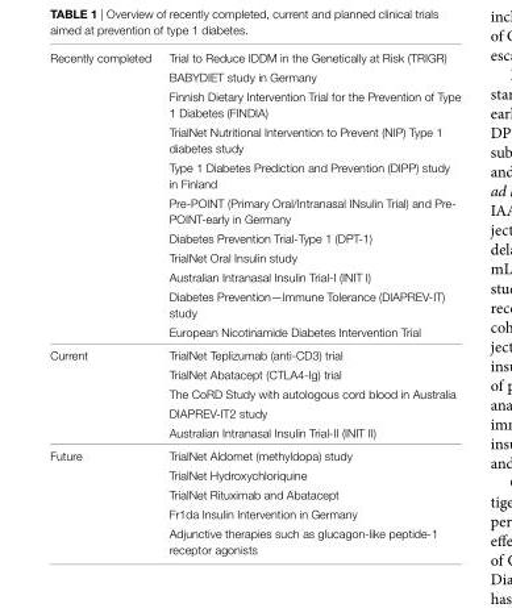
<table><tbody><tr><td rowspan="11">Recently completed</td><td>Trial to Reduce IDDM in the Genetically at Risk (TRIGR)</td></tr><tr><td>BABYDIET study in Germany</td></tr><tr><td>Finnish Dietary Intervention Trial for the Prevention of Type 1 Diabetes (FINDIA)</td></tr><tr><td>TrialNet Nutritional Intervention to Prevent (NIP) Type 1 diabetes study</td></tr><tr><td>Type 1 Diabetes Prediction and Prevention (DIPP) study in Finland</td></tr><tr><td>Pre-POINT (Primary Oral/Intranasal INsulin Trial) and Pre- POINT-early in Germany</td></tr><tr><td>Diabetes Prevention Trial-Type 1 (DPT-1)</td></tr><tr><td>TrialNet Oral Insulin study</td></tr><tr><td>Australian Intranasal Insulin Trial-I (INIT I)</td></tr><tr><td>Diabetes Prevention—Immune Tolerance (DIAPREV-IT) study</td></tr><tr><td>European Nicotinamide Diabetes Intervention Trial</td></tr><tr><td rowspan="5">Current</td><td>TrialNet Teplizumab (anti-CD3) trial</td></tr><tr><td>TrialNet Abatacept (CTLA4-Ig) trial</td></tr><tr><td>The CoRD Study with autologous cord blood in Australia</td></tr><tr><td>DIAPREV-IT2 study</td></tr><tr><td>Australian Intranasal Insulin Trial-II (INIT II)</td></tr><tr><td rowspan="5">Future</td><td>TrialNet Aldomet (methyldopa) study</td></tr><tr><td>TrialNet Hydroxychloriquine</td></tr><tr><td>TrialNet Rituximab and Abatacept</td></tr><tr><td>Fr1da Insulin Intervention in Germany</td></tr><tr><td>Adjunctive therapies such as glucagon-like peptide-1 receptor agonists</td></tr></tbody></table>